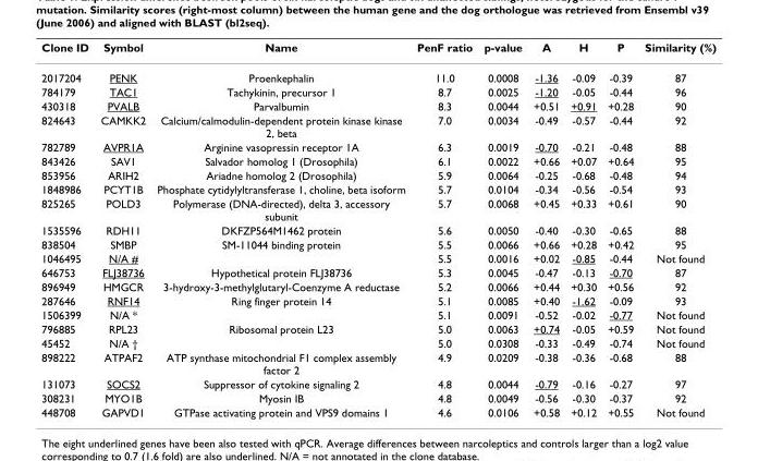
<table><thead><tr><td>Clone ID</td><td>Symbol</td><td>Name</td><td>PenF ratio</td><td>p-value</td><td>A</td><td>H</td><td>P</td><td>Similarity (%)</td></tr></thead><tbody><tr><td>2017204</td><td>PENK</td><td>Proenkephalin</td><td>11.0</td><td>0.0008</td><td>-1.36</td><td>-0.09</td><td>-0.39</td><td>87</td></tr><tr><td>784179</td><td>TAC1</td><td>Tachykinin, precursor 1</td><td>8.7</td><td>0.0025</td><td>-1.20</td><td>-0.05</td><td>-0.44</td><td>96</td></tr><tr><td>430318</td><td>PVALB</td><td>Parvalbumin</td><td>8.3</td><td>0.0044</td><td>+0.51</td><td>+0.91</td><td>+0.28</td><td>90</td></tr><tr><td>824643</td><td>CAMKK2</td><td>Calcium/calmodulin-dependent protein kinase kinase 2, beta</td><td>7.0</td><td>0.0034</td><td>-0.49</td><td>-0.57</td><td>-0.44</td><td>92</td></tr><tr><td>782789</td><td>AVPR1A</td><td>Arginine vasopressin receptor 1A</td><td>6.3</td><td>0.0019</td><td>-0.70</td><td>-0.21</td><td>-0.48</td><td>88</td></tr><tr><td>843426</td><td>SAV1</td><td>Salvador homolog 1 (Drosophila)</td><td>6.1</td><td>0.0022</td><td>+0.66</td><td>+0.07</td><td>+0.64</td><td>95</td></tr><tr><td>853956</td><td>ARIH2</td><td>Ariadne homolog 2 (Drosophila)</td><td>5.9</td><td>0.0064</td><td>-0.25</td><td>-0.68</td><td>-0.48</td><td>94</td></tr><tr><td>1848986</td><td>PCYT1B</td><td>Phosphate cytidylyltransferase 1, choline, beta isoform</td><td>5.7</td><td>0.0104</td><td>-0.34</td><td>-0.56</td><td>-0.54</td><td>93</td></tr><tr><td>825265</td><td>POLD3</td><td>Polymerase (DNA-directed), delta 3, accessory subunit</td><td>5.7</td><td>0.0068</td><td>+0.45</td><td>+0.33</td><td>+0.61</td><td>90</td></tr><tr><td>1535596</td><td>RDH11</td><td>DKFZP564M1462 protein</td><td>5.6</td><td>0.0050</td><td>-0.40</td><td>-0.30</td><td>-0.65</td><td>88</td></tr><tr><td>838504</td><td>SMBP</td><td>SM-11044 binding protein</td><td>5.5</td><td>0.0066</td><td>+0.66</td><td>+0.28</td><td>+0.42</td><td>95</td></tr><tr><td>1046495</td><td>N/A #</td><td></td><td>5.5</td><td>0.0016</td><td>+0.02</td><td>-0.85</td><td>-0.44</td><td>Not found</td></tr><tr><td>646753</td><td>FLJ38736</td><td>Hypothetical protein FLJ38736</td><td>5.3</td><td>0.0045</td><td>-0.47</td><td>-0.13</td><td>-0.70</td><td>87</td></tr><tr><td>896949</td><td>HMGCR</td><td>3-hydroxy-3-methylglutaryl-Coenzyme A reductase</td><td>5.2</td><td>0.0066</td><td>+0.44</td><td>+0.30</td><td>+0.56</td><td>92</td></tr><tr><td>287646</td><td>RNF14</td><td>Ring finger protein 14</td><td>5.1</td><td>0.0085</td><td>+0.40</td><td>-1.62</td><td>-0.09</td><td>93</td></tr><tr><td>1506399</td><td>N/A *</td><td></td><td>5.1</td><td>0.0091</td><td>-0.52</td><td>-0.02</td><td>-0.77</td><td>Not found</td></tr><tr><td>796885</td><td>RPL23</td><td>Ribosomal protein L23</td><td>5.0</td><td>0.0063</td><td>+0.74</td><td>-0.05</td><td>+0.59</td><td>Not found</td></tr><tr><td>45452</td><td>N/A †</td><td></td><td>5.0</td><td>0.0308</td><td>-0.33</td><td>-0.49</td><td>-0.74</td><td>Not found</td></tr><tr><td>898222</td><td>ATPAF2</td><td>ATP synthase mitochondrial F1 complex assembly factor 2</td><td>4.9</td><td>0.0209</td><td>-0.38</td><td>-0.36</td><td>-0.68</td><td>88</td></tr><tr><td>131073</td><td>SOCS2</td><td>Suppressor of cytokine signaling 2</td><td>4.8</td><td>0.0044</td><td>-0.79</td><td>-0.16</td><td>-0.27</td><td>97</td></tr><tr><td>308231</td><td>MYO1B</td><td>Myosin IB</td><td>4.8</td><td>0.0049</td><td>-0.56</td><td>-0.30</td><td>-0.37</td><td>92</td></tr><tr><td>448708</td><td>GAPVD1</td><td>GTPase activating protein and VPS9 domains 1</td><td>4.6</td><td>0.0106</td><td>+0.58</td><td>+0.12</td><td>+0.55</td><td>Not found</td></tr></tbody></table>